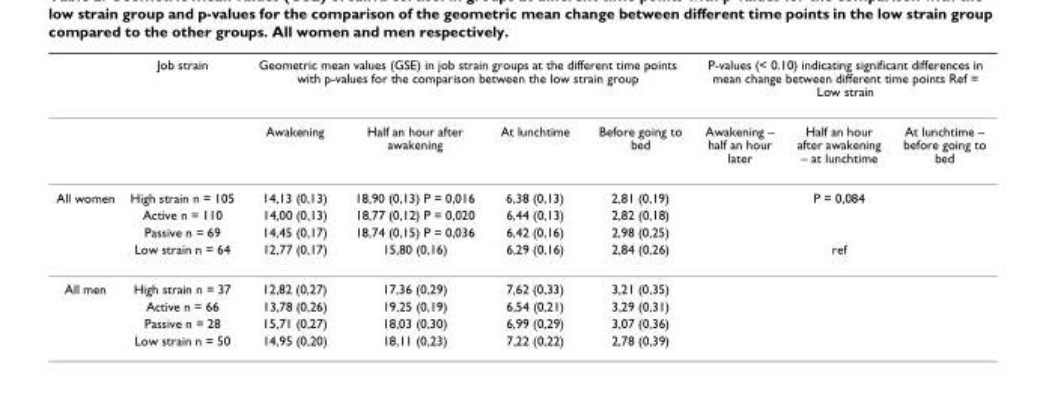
<table><thead><tr><td rowspan="2"></td><td rowspan="2">Job strain</td><td colspan="4">Geometric mean values (GSE) in job strain groups at the different time points with p-values for the comparison between the low strain group</td><td colspan="3">P-values (&lt; 0.10) indicating significant differences in mean change between different time points Ref = Low strain</td></tr><tr><td>Awakening</td><td>Half an hour after awakening</td><td>At lunchtime</td><td>Before going to bed</td><td>Awakening – half an hour later</td><td>Half an hour after awakening – at lunchtime</td><td>At lunchtime – before going to bed</td></tr></thead><tbody><tr><td rowspan="4">All women</td><td>High strain n = 105</td><td>14,13 (0,13)</td><td>18,90 (0,13) P = 0,016</td><td>6,38 (0,13)</td><td>2,81 (0,19)</td><td></td><td>P = 0,084</td><td></td></tr><tr><td>Active n = 110</td><td>14,00 (0,13)</td><td>18,77 (0,12) P = 0,020</td><td>6,44 (0,13)</td><td>2,82 (0,18)</td><td></td><td></td><td></td></tr><tr><td>Passive n = 69</td><td>14,45 (0,17)</td><td>18,74 (0,15) P = 0,036</td><td>6,42 (0,16)</td><td>2,98 (0,25)</td><td></td><td></td><td></td></tr><tr><td>Low strain n = 64</td><td>12,77 (0,17)</td><td>15,80 (0,16)</td><td>6,29 (0,16)</td><td>2,84 (0,26)</td><td></td><td>ref</td><td></td></tr><tr><td rowspan="4">All men</td><td>High strain n = 37</td><td>12,82 (0,27)</td><td>17,36 (0,29)</td><td>7,62 (0,33)</td><td>3,21 (0,35)</td><td></td><td></td><td></td></tr><tr><td>Active n = 66</td><td>13,78 (0,26)</td><td>19,25 (0,19)</td><td>6,54 (0,21)</td><td>3,29 (0,31)</td><td></td><td></td><td></td></tr><tr><td>Passive n = 28</td><td>15,71 (0,27)</td><td>18,03 (0,30)</td><td>6,99 (0,29)</td><td>3,07 (0,36)</td><td></td><td></td><td></td></tr><tr><td>Low strain n = 50</td><td>14,95 (0,20)</td><td>18,11 (0,23)</td><td>7,22 (0,22)</td><td>2,78 (0,39)</td><td></td><td></td><td></td></tr></tbody></table>